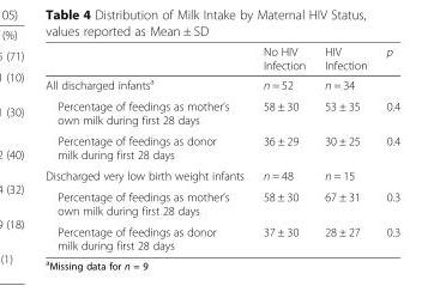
<table><thead><tr><td></td><td>No HIV Infection</td><td>HIV Infection</td><td>p</td></tr></thead><tbody><tr><td>All discharged infants<sup>a</sup></td><td>n = 52</td><td>n = 34</td><td></td></tr><tr><td>Percentage of feedings as mother’s own milk during first 28 days</td><td>58 ± 30</td><td>53 ± 35</td><td>0.4</td></tr><tr><td>Percentage of feedings as donor milk during first 28 days</td><td>36 ± 29</td><td>30 ± 25</td><td>0.4</td></tr><tr><td>Discharged very low birth weight infants</td><td>n = 48</td><td>n = 15</td><td></td></tr><tr><td>Percentage of feedings as mother’s own milk during first 28 days</td><td>58 ± 30</td><td>67 ± 31</td><td>0.3</td></tr><tr><td>Percentage of feedings as donor milk during first 28 days</td><td>37 ± 30</td><td>28 ± 27</td><td>0.3</td></tr></tbody></table>